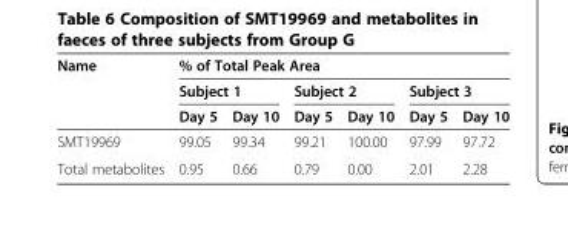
<table><thead><tr><td rowspan="3">Name</td><td colspan="6">% of Total Peak Area</td></tr><tr><td colspan="2">Subject 1</td><td colspan="2">Subject 2</td><td colspan="2">Subject 3</td></tr><tr><td>Day 5</td><td>Day 10</td><td>Day 5</td><td>Day 10</td><td>Day 5</td><td>Day 10</td></tr></thead><tbody><tr><td>SMT19969</td><td>99.05</td><td>99.34</td><td>99.21</td><td>100.00</td><td>97.99</td><td>97.72</td></tr><tr><td>Total metabolites</td><td>0.95</td><td>0.66</td><td>0.79</td><td>0.00</td><td>2.01</td><td>2.28</td></tr></tbody></table>